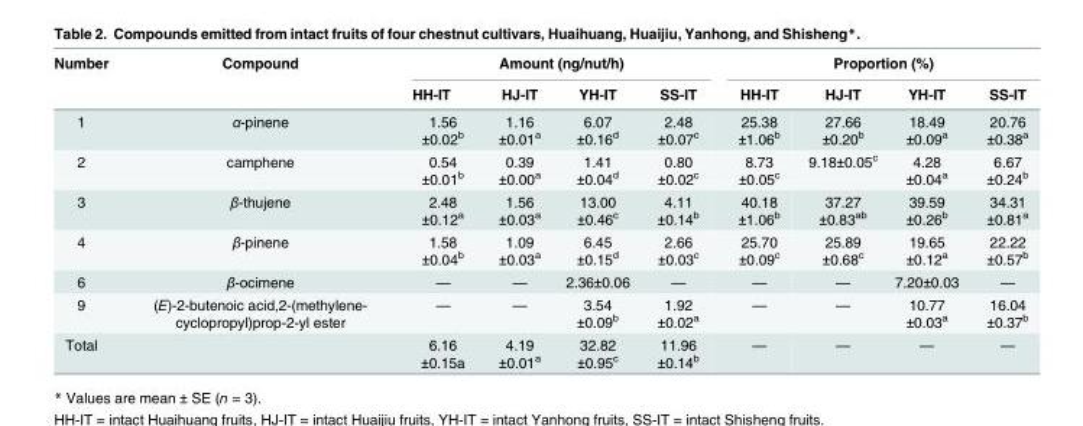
<table><thead><tr><td rowspan="2">Number</td><td rowspan="2">Compound</td><td colspan="4">Amount (ng/nut/h)</td><td colspan="4">Proportion (%)</td></tr><tr><td>HH-IT</td><td>HJ-IT</td><td>YH-IT</td><td>SS-IT</td><td>HH-IT</td><td>HJ-IT</td><td>YH-IT</td><td>SS-IT</td></tr></thead><tbody><tr><td>1</td><td>α-pinene</td><td>1.56 ±0.02<sup>b</sup></td><td>1.16 ±0.01<sup>a</sup></td><td>6.07 ±0.16<sup>d</sup></td><td>2.48 ±0.07<sup>c</sup></td><td>25.38 ±1.06<sup>b</sup></td><td>27.66 ±0.20<sup>b</sup></td><td>18.49 ±0.09<sup>a</sup></td><td>20.76 ±0.38<sup>a</sup></td></tr><tr><td>2</td><td>camphene</td><td>0.54 ±0.01<sup>b</sup></td><td>0.39 ±0.00<sup>a</sup></td><td>1.41 ±0.04<sup>d</sup></td><td>0.80 ±0.02<sup>c</sup></td><td>8.73 ±0.05<sup>c</sup></td><td>9.18±0.05<sup>c</sup></td><td>4.28 ±0.04<sup>a</sup></td><td>6.67 ±0.24<sup>b</sup></td></tr><tr><td>3</td><td>β-thujene</td><td>2.48 ±0.12<sup>a</sup></td><td>1.56 ±0.03<sup>a</sup></td><td>13.00 ±0.46<sup>c</sup></td><td>4.11 ±0.14<sup>b</sup></td><td>40.18 ±1.06<sup>b</sup></td><td>37.27 ±0.83<sup>ab</sup></td><td>39.59 ±0.26<sup>b</sup></td><td>34.31 ±0.81<sup>a</sup></td></tr><tr><td>4</td><td>β-pinene</td><td>1.58 ±0.04<sup>b</sup></td><td>1.09 ±0.03<sup>a</sup></td><td>6.45 ±0.15<sup>d</sup></td><td>2.66 ±0.03<sup>c</sup></td><td>25.70 ±0.09<sup>c</sup></td><td>25.89 ±0.68<sup>c</sup></td><td>19.65 ±0.12<sup>a</sup></td><td>22.22 ±0.57<sup>b</sup></td></tr><tr><td>6</td><td>β-ocimene</td><td>—</td><td>—</td><td>2.36±0.06</td><td>—</td><td>—</td><td>—</td><td>7.20±0.03</td><td>—</td></tr><tr><td>9</td><td>(E)-2-butenoic acid,2-(methylene- cyclopropyl)prop-2-yl ester</td><td>—</td><td>—</td><td>3.54 ±0.09<sup>b</sup></td><td>1.92 ±0.02<sup>a</sup></td><td>—</td><td>—</td><td>10.77 ±0.03<sup>a</sup></td><td>16.04 ±0.37<sup>b</sup></td></tr><tr><td>Total</td><td></td><td>6.16 ±0.15<sup>a</sup></td><td>4.19 ±0.01<sup>a</sup></td><td>32.82 ±0.95<sup>c</sup></td><td>11.96 ±0.14<sup>b</sup></td><td>—</td><td>—</td><td>—</td><td>—</td></tr></tbody></table>